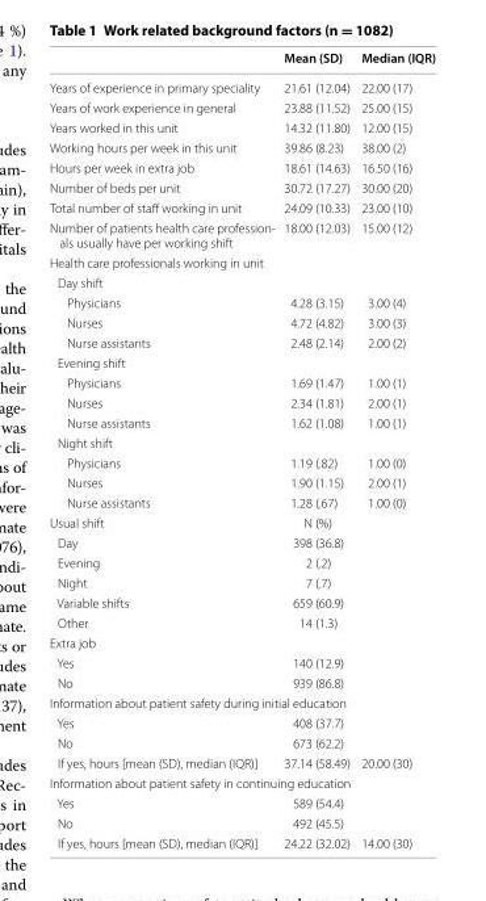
<table><thead><tr><td></td><td>Mean (SD)</td><td>Median (IQR)</td></tr></thead><tbody><tr><td>Years of experience in primary speciality</td><td>21.61 (12.04)</td><td>22.00 (17)</td></tr><tr><td>Years of work experience in general</td><td>23.88 (11.52)</td><td>25.00 (15)</td></tr><tr><td>Years worked in this unit</td><td>14.32 (11.80)</td><td>12.00 (15)</td></tr><tr><td>Working hours per week in this unit</td><td>39.86 (8.23)</td><td>38.00 (2)</td></tr><tr><td>Hours per week in extra job</td><td>18.61 (14.63)</td><td>16.50 (16)</td></tr><tr><td>Number of beds per unit</td><td>30.72 (17.27)</td><td>30.00 (20)</td></tr><tr><td>Total number of staff working in unit</td><td>24.09 (10.33)</td><td>23.00 (10)</td></tr><tr><td>Number of patients health care profession- als usually have per working shift</td><td>18.00 (12.03)</td><td>15.00 (12)</td></tr><tr><td colspan="3">Health care professionals working in unit</td></tr><tr><td colspan="3">Day shift</td></tr><tr><td>Physicians</td><td>4.28 (3.15)</td><td>3.00 (4)</td></tr><tr><td>Nurses</td><td>4.72 (4.82)</td><td>3.00 (3)</td></tr><tr><td>Nurse assistants</td><td>2.48 (2.14)</td><td>2.00 (2)</td></tr><tr><td colspan="3">Evening shift</td></tr><tr><td>Physicians</td><td>1.69 (1.47)</td><td>1.00 (1)</td></tr><tr><td>Nurses</td><td>2.34 (1.81)</td><td>2.00 (1)</td></tr><tr><td>Nurse assistants</td><td>1.62 (1.08)</td><td>1.00 (1)</td></tr><tr><td colspan="3">Night shift</td></tr><tr><td>Physicians</td><td>1.19 (.82)</td><td>1.00 (0)</td></tr><tr><td>Nurses</td><td>1.90 (1.15)</td><td>2.00 (1)</td></tr><tr><td>Nurse assistants</td><td>1.28 (.67)</td><td>1.00 (0)</td></tr><tr><td>Usual shift</td><td>N (%)</td><td></td></tr><tr><td>Day</td><td>398 (36.8)</td><td></td></tr><tr><td>Evening</td><td>2 (.2)</td><td></td></tr><tr><td>Night</td><td>7 (.7)</td><td></td></tr><tr><td>Variable shifts</td><td>659 (60.9)</td><td></td></tr><tr><td>Other</td><td>14 (1.3)</td><td></td></tr><tr><td colspan="3">Extra job</td></tr><tr><td>Yes</td><td>140 (12.9)</td><td></td></tr><tr><td>No</td><td>939 (86.8)</td><td></td></tr><tr><td colspan="3">Information about patient safety during initial education</td></tr><tr><td>Yes</td><td>408 (37.7)</td><td></td></tr><tr><td>No</td><td>673 (62.2)</td><td></td></tr><tr><td>If yes, hours [mean (SD), median (IQR)]</td><td>37.14 (58.49)</td><td>20.00 (30)</td></tr><tr><td colspan="3">Information about patient safety in continuing education</td></tr><tr><td>Yes</td><td>589 (54.4)</td><td></td></tr><tr><td>No</td><td>492 (45.5)</td><td></td></tr><tr><td>If yes, hours [mean (SD), median (IQR)]</td><td>24.22 (32.02)</td><td>14.00 (30)</td></tr></tbody></table>